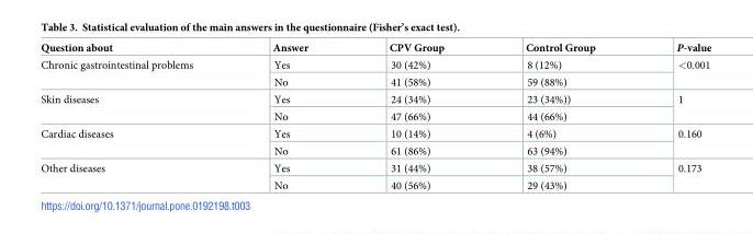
<table><thead><tr><td>Question about</td><td>Answer</td><td>CPV Group</td><td>Control Group</td><td>P-value</td></tr></thead><tbody><tr><td rowspan="2">Chronic gastrointestinal problems</td><td>Yes</td><td>30 (42%)</td><td>8 (12%)</td><td rowspan="2">&lt;0.001</td></tr><tr><td>No</td><td>41 (58%)</td><td>59 (88%)</td></tr><tr><td rowspan="2">Skin diseases</td><td>Yes</td><td>24 (34%)</td><td>23 (34%))</td><td rowspan="2">1</td></tr><tr><td>No</td><td>47 (66%)</td><td>44 (66%)</td></tr><tr><td rowspan="2">Cardiac diseases</td><td>Yes</td><td>10 (14%)</td><td>4 (6%)</td><td rowspan="2">0.160</td></tr><tr><td>No</td><td>61 (86%)</td><td>63 (94%)</td></tr><tr><td rowspan="2">Other diseases</td><td>Yes</td><td>31 (44%)</td><td>38 (57%)</td><td rowspan="2">0.173</td></tr><tr><td>No</td><td>40 (56%)</td><td>29 (43%)</td></tr></tbody></table>